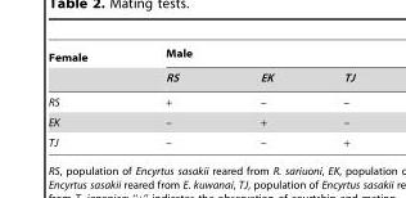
<table><thead><tr><td rowspan="2">Female</td><td colspan="3">Male</td></tr><tr><td>RS</td><td>EK</td><td>TJ</td></tr></thead><tbody><tr><td>RS</td><td>+</td><td>–</td><td>–</td></tr><tr><td>EK</td><td>–</td><td>+</td><td>–</td></tr><tr><td>TJ</td><td>–</td><td>–</td><td>+</td></tr></tbody></table>